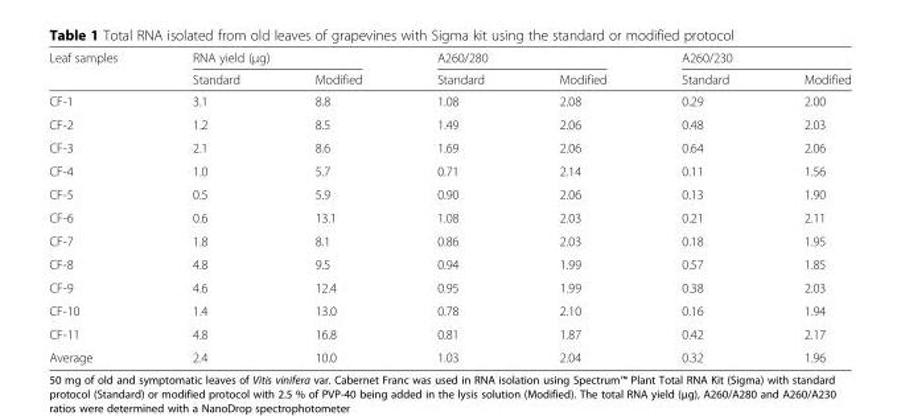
<table><thead><tr><td rowspan="2">Leaf samples</td><td colspan="2">RNA yield (μg)</td><td colspan="2">A260/280</td><td colspan="2">A260/230</td></tr><tr><td>Standard</td><td>Modified</td><td>Standard</td><td>Modified</td><td>Standard</td><td>Modified</td></tr></thead><tbody><tr><td>CF-1</td><td>3.1</td><td>8.8</td><td>1.08</td><td>2.08</td><td>0.29</td><td>2.00</td></tr><tr><td>CF-2</td><td>1.2</td><td>8.5</td><td>1.49</td><td>2.06</td><td>0.48</td><td>2.03</td></tr><tr><td>CF-3</td><td>2.1</td><td>8.6</td><td>1.69</td><td>2.06</td><td>0.64</td><td>2.06</td></tr><tr><td>CF-4</td><td>1.0</td><td>5.7</td><td>0.71</td><td>2.14</td><td>0.11</td><td>1.56</td></tr><tr><td>CF-5</td><td>0.5</td><td>5.9</td><td>0.90</td><td>2.06</td><td>0.13</td><td>1.90</td></tr><tr><td>CF-6</td><td>0.6</td><td>13.1</td><td>1.08</td><td>2.03</td><td>0.21</td><td>2.11</td></tr><tr><td>CF-7</td><td>1.8</td><td>8.1</td><td>0.86</td><td>2.03</td><td>0.18</td><td>1.95</td></tr><tr><td>CF-8</td><td>4.8</td><td>9.5</td><td>0.94</td><td>1.99</td><td>0.57</td><td>1.85</td></tr><tr><td>CF-9</td><td>4.6</td><td>12.4</td><td>0.95</td><td>1.99</td><td>0.38</td><td>2.03</td></tr><tr><td>CF-10</td><td>1.4</td><td>13.0</td><td>0.78</td><td>2.10</td><td>0.16</td><td>1.94</td></tr><tr><td>CF-11</td><td>4.8</td><td>16.8</td><td>0.81</td><td>1.87</td><td>0.42</td><td>2.17</td></tr><tr><td>Average</td><td>2.4</td><td>10.0</td><td>1.03</td><td>2.04</td><td>0.32</td><td>1.96</td></tr></tbody></table>